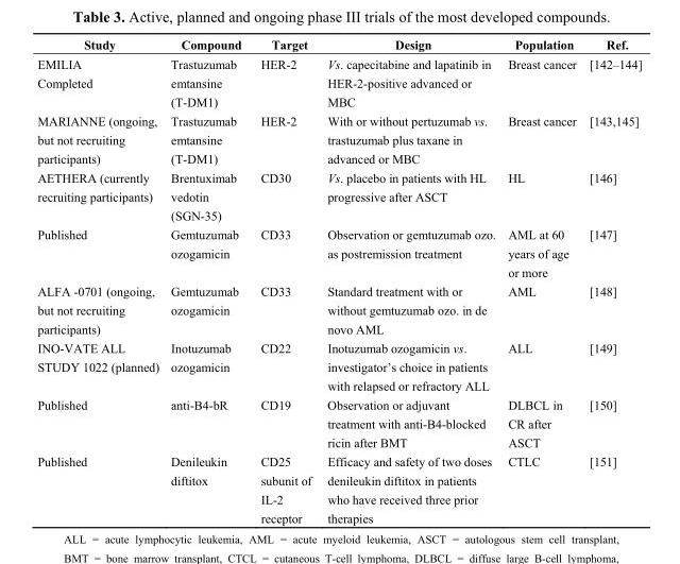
<table><thead><tr><td>Study</td><td>Compound</td><td>Target</td><td>Design</td><td>Population</td><td>Ref.</td></tr></thead><tbody><tr><td>EMILIA Completed</td><td>Trastuzumab emtansine (T-DM1)</td><td>HER-2</td><td>Vs. capecitabine and lapatinib in HER-2-positive advanced or MBC</td><td>Breast cancer</td><td>[142–144]</td></tr><tr><td>MARIANNE (ongoing, but not recruiting participants)</td><td>Trastuzumab emtansine (T-DM1)</td><td>HER-2</td><td>With or without pertuzumab vs. trastuzumab plus taxane in advanced or MBC</td><td>Breast cancer</td><td>[143,145]</td></tr><tr><td>AETHERA (currently recruiting participants)</td><td>Brentuximab vedotin (SGN-35)</td><td>CD30</td><td>Vs. placebo in patients with HL progressive after ASCT</td><td>HL</td><td>[146]</td></tr><tr><td>Published</td><td>Gemtuzumab ozogamicin</td><td>CD33</td><td>Observation or gemtuzumab ozo. as postremission treatment</td><td>AML at 60 years of age or more</td><td>[147]</td></tr><tr><td>ALFA -0701 (ongoing, but not recruiting participants)</td><td>Gemtuzumab ozogamicin</td><td>CD33</td><td>Standard treatment with or without gemtuzumab ozo. in de novo AML</td><td>AML</td><td>[148]</td></tr><tr><td>INO-VATE ALL STUDY 1022 (planned)</td><td>Inotuzumab ozogamicin</td><td>CD22</td><td>Inotuzumab ozogamicin vs. investigator’s choice in patients with relapsed or refractory ALL</td><td>ALL</td><td>[149]</td></tr><tr><td>Published</td><td>anti-B4-bR</td><td>CD19</td><td>Observation or adjuvant treatment with anti-B4-blocked ricin after BMT</td><td>DLBCL in CR after ASCT</td><td>[150]</td></tr><tr><td>Published</td><td>Denileukin diftitox</td><td>CD25 subunit of IL-2 receptor</td><td>Efficacy and safety of two doses denileukin diftitox in patients who have received three prior therapies</td><td>CTLC</td><td>[151]</td></tr></tbody></table>